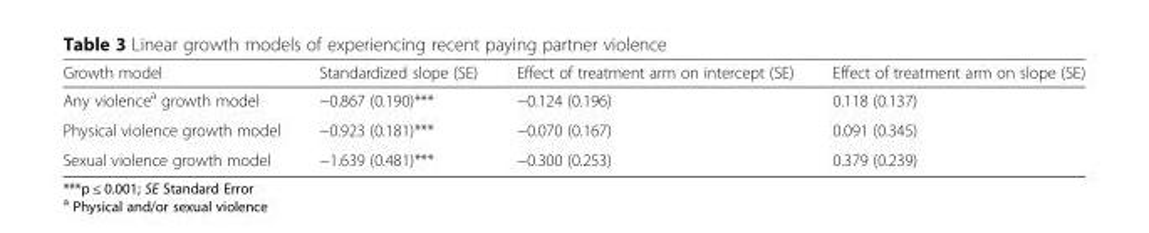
<table><thead><tr><td>Growth model</td><td>Standardized slope (SE)</td><td>Effect of treatment arm on intercept (SE)</td><td>Effect of treatment arm on slope (SE)</td></tr></thead><tbody><tr><td>Any violence<sup>a</sup> growth model</td><td>−0.867 (0.190)***</td><td>−0.124 (0.196)</td><td>0.118 (0.137)</td></tr><tr><td>Physical violence growth model</td><td>−0.923 (0.181)***</td><td>−0.070 (0.167)</td><td>0.091 (0.345)</td></tr><tr><td>Sexual violence growth model</td><td>−1.639 (0.481)***</td><td>−0.300 (0.253)</td><td>0.379 (0.239)</td></tr></tbody></table>